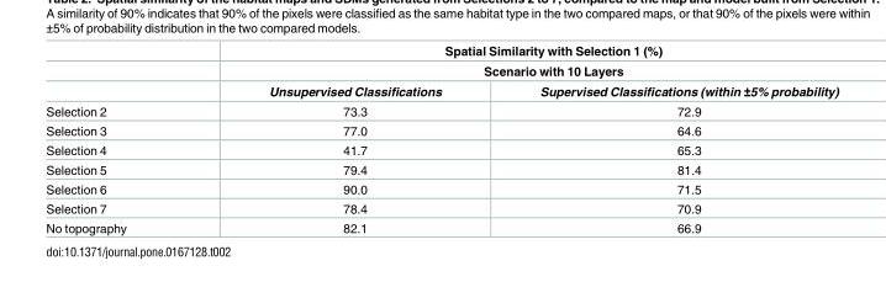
<table><thead><tr><td rowspan="3"></td><td rowspan="2" colspan="2">Spatial Similarity with Selection 1 (%) Scenario with 10 Layers</td></tr><tr></tr><tr><td>Unsupervised Classifications</td><td>Supervised Classifications (within ±5% probability)</td></tr></thead><tbody><tr><td>Selection 2</td><td>73.3</td><td>72.9</td></tr><tr><td>Selection 3</td><td>77.0</td><td>64.6</td></tr><tr><td>Selection 4</td><td>41.7</td><td>65.3</td></tr><tr><td>Selection 5</td><td>79.4</td><td>81.4</td></tr><tr><td>Selection 6</td><td>90.0</td><td>71.5</td></tr><tr><td>Selection 7</td><td>78.4</td><td>70.9</td></tr><tr><td>No topography</td><td>82.1</td><td>66.9</td></tr></tbody></table>